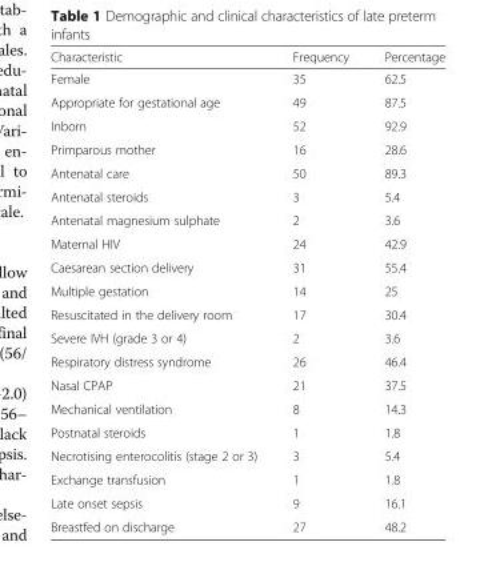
<table><thead><tr><td>Characteristic</td><td>Frequency</td><td>Percentage</td></tr></thead><tbody><tr><td>Female</td><td>35</td><td>62.5</td></tr><tr><td>Appropriate for gestational age</td><td>49</td><td>87.5</td></tr><tr><td>Inborn</td><td>52</td><td>92.9</td></tr><tr><td>Primparous mother</td><td>16</td><td>28.6</td></tr><tr><td>Antenatal care</td><td>50</td><td>89.3</td></tr><tr><td>Antenatal steroids</td><td>3</td><td>5.4</td></tr><tr><td>Antenatal magnesium sulphate</td><td>2</td><td>3.6</td></tr><tr><td>Maternal HIV</td><td>24</td><td>42.9</td></tr><tr><td>Caesarean section delivery</td><td>31</td><td>55.4</td></tr><tr><td>Multiple gestation</td><td>14</td><td>25</td></tr><tr><td>Resuscitated in the delivery room</td><td>17</td><td>30.4</td></tr><tr><td>Severe IVH (grade 3 or 4)</td><td>2</td><td>3.6</td></tr><tr><td>Respiratory distress syndrome</td><td>26</td><td>46.4</td></tr><tr><td>Nasal CPAP</td><td>21</td><td>37.5</td></tr><tr><td>Mechanical ventilation</td><td>8</td><td>14.3</td></tr><tr><td>Postnatal steroids</td><td>1</td><td>1.8</td></tr><tr><td>Necrotising enterocolitis (stage 2 or 3)</td><td>3</td><td>5.4</td></tr><tr><td>Exchange transfusion</td><td>1</td><td>1.8</td></tr><tr><td>Late onset sepsis</td><td>9</td><td>16.1</td></tr><tr><td>Breastfed on discharge</td><td>27</td><td>48.2</td></tr></tbody></table>